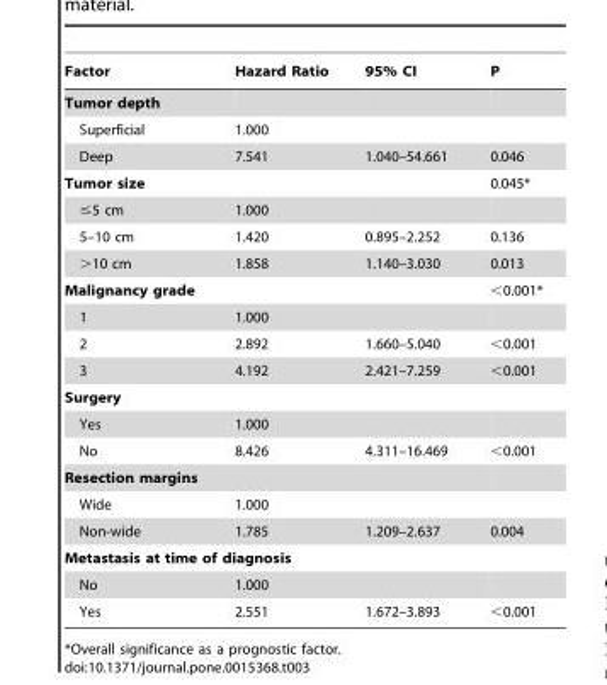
<table><thead><tr><td>Factor</td><td>Hazard Ratio</td><td>95% CI</td><td>P</td></tr></thead><tbody><tr><td colspan="4">Tumor depth</td></tr><tr><td>Superficial</td><td>1.000</td><td></td><td></td></tr><tr><td>Deep</td><td>7.541</td><td>1.040–54.661</td><td>0.046</td></tr><tr><td>Tumor size</td><td></td><td></td><td>0.045*</td></tr><tr><td>≤5 cm</td><td>1.000</td><td></td><td></td></tr><tr><td>5–10 cm</td><td>1.420</td><td>0.895–2.252</td><td>0.136</td></tr><tr><td>&gt;10 cm</td><td>1.858</td><td>1.140–3.030</td><td>0.013</td></tr><tr><td>Malignancy grade</td><td></td><td></td><td>&lt;0.001*</td></tr><tr><td>1</td><td>1.000</td><td></td><td></td></tr><tr><td>2</td><td>2.892</td><td>1.660–5.040</td><td>&lt;0.001</td></tr><tr><td>3</td><td>4.192</td><td>2.421–7.259</td><td>&lt;0.001</td></tr><tr><td colspan="4">Surgery</td></tr><tr><td>Yes</td><td>1.000</td><td></td><td></td></tr><tr><td>No</td><td>8.426</td><td>4.311–16.469</td><td>&lt;0.001</td></tr><tr><td colspan="4">Resection margins</td></tr><tr><td>Wide</td><td>1.000</td><td></td><td></td></tr><tr><td>Non-wide</td><td>1.785</td><td>1.209–2.637</td><td>0.004</td></tr><tr><td colspan="4">Metastasis at time of diagnosis</td></tr><tr><td>No</td><td>1.000</td><td></td><td></td></tr><tr><td>Yes</td><td>2.551</td><td>1.672–3.893</td><td>&lt;0.001</td></tr></tbody></table>